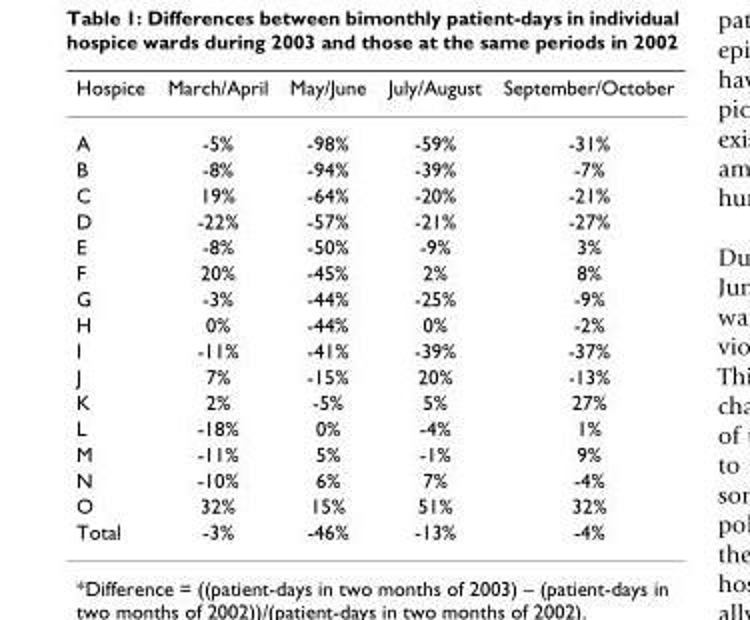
<table><thead><tr><td>Hospice</td><td>March/April</td><td>May/June</td><td>July/August</td><td>September/October</td></tr></thead><tbody><tr><td>A</td><td>-5%</td><td>-98%</td><td>-59%</td><td>-31%</td></tr><tr><td>B</td><td>-8%</td><td>-94%</td><td>-39%</td><td>-7%</td></tr><tr><td>C</td><td>19%</td><td>-64%</td><td>-20%</td><td>-21%</td></tr><tr><td>D</td><td>-22%</td><td>-57%</td><td>-21%</td><td>-27%</td></tr><tr><td>E</td><td>-8%</td><td>-50%</td><td>-9%</td><td>3%</td></tr><tr><td>F</td><td>20%</td><td>-45%</td><td>2%</td><td>8%</td></tr><tr><td>G</td><td>-3%</td><td>-44%</td><td>-25%</td><td>-9%</td></tr><tr><td>H</td><td>0%</td><td>-44%</td><td>0%</td><td>-2%</td></tr><tr><td>I</td><td>-11%</td><td>-41%</td><td>-39%</td><td>-37%</td></tr><tr><td>J</td><td>7%</td><td>-15%</td><td>20%</td><td>-13%</td></tr><tr><td>K</td><td>2%</td><td>-5%</td><td>5%</td><td>27%</td></tr><tr><td>L</td><td>-18%</td><td>0%</td><td>-4%</td><td>1%</td></tr><tr><td>M</td><td>-11%</td><td>5%</td><td>-1%</td><td>9%</td></tr><tr><td>N</td><td>-10%</td><td>6%</td><td>7%</td><td>-4%</td></tr><tr><td>O</td><td>32%</td><td>15%</td><td>51%</td><td>32%</td></tr><tr><td>Total</td><td>-3%</td><td>-46%</td><td>-13%</td><td>-4%</td></tr></tbody></table>